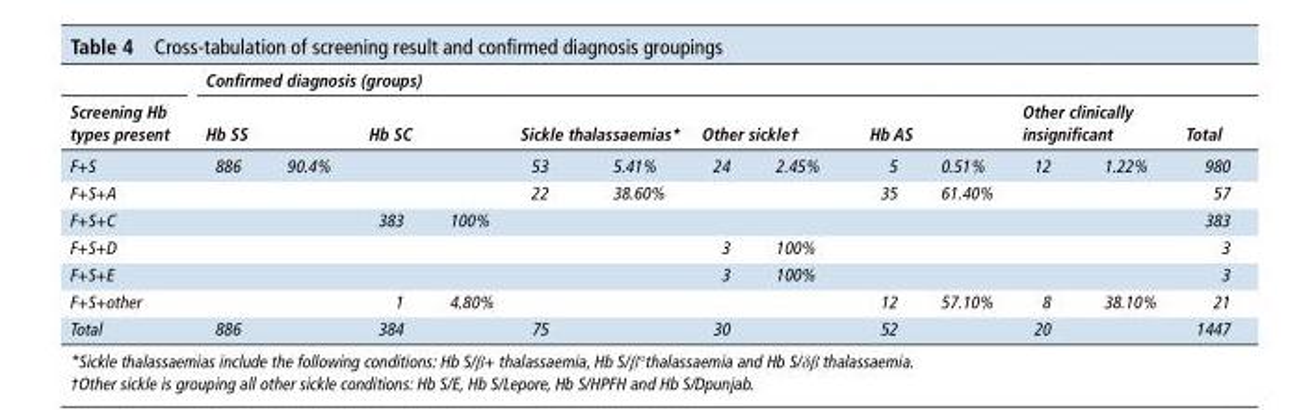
<table><thead><tr><td rowspan="3">Screening Hb types present F+S</td><td colspan="13">Confirmed diagnosis (groups)</td></tr><tr><td colspan="2">Hb SS</td><td colspan="2">Hb SC</td><td colspan="2">Sickle thalassaemias*</td><td colspan="2">Other sickle†</td><td colspan="2">Hb AS</td><td colspan="2">Other clinically insignificant</td><td rowspan="2">Total 980</td></tr><tr><td>886</td><td>90.4%</td><td></td><td></td><td>53</td><td>5.41%</td><td>24</td><td>2.45%</td><td>5</td><td>0.51%</td><td>12</td><td>1.22%</td></tr></thead><tbody><tr><td>F+S+A</td><td></td><td></td><td></td><td></td><td>22</td><td>38.60%</td><td></td><td></td><td>35</td><td>61.40%</td><td></td><td></td><td>57</td></tr><tr><td>F+S+C</td><td></td><td></td><td>383</td><td>100%</td><td></td><td></td><td></td><td></td><td></td><td></td><td></td><td></td><td>383</td></tr><tr><td>F+S+D</td><td></td><td></td><td></td><td></td><td></td><td></td><td>3</td><td>100%</td><td></td><td></td><td></td><td></td><td>3</td></tr><tr><td>F+S+E</td><td></td><td></td><td></td><td></td><td></td><td></td><td>3</td><td>100%</td><td></td><td></td><td></td><td></td><td>3</td></tr><tr><td>F+S+other</td><td></td><td></td><td>1</td><td>4.80%</td><td></td><td></td><td></td><td></td><td>12</td><td>57.10%</td><td>8</td><td>38.10%</td><td>21</td></tr><tr><td>Total</td><td>886</td><td></td><td>384</td><td></td><td>75</td><td></td><td>30</td><td></td><td>52</td><td></td><td>20</td><td></td><td>1447</td></tr></tbody></table>